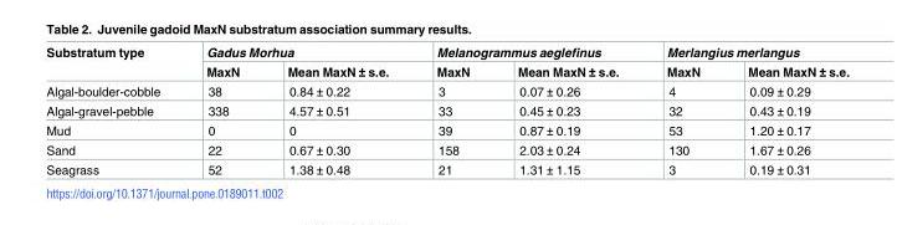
<table><thead><tr><td rowspan="2">Substratum type</td><td colspan="2">Gadus Morhua</td><td colspan="2">Melanogrammus aeglefinus</td><td colspan="2">Merlangius merlangus</td></tr><tr><td>MaxN</td><td>Mean MaxN ± s.e.</td><td>MaxN</td><td>Mean MaxN ± s.e.</td><td>MaxN</td><td>Mean MaxN ± s.e.</td></tr></thead><tbody><tr><td>Algal-boulder-cobble</td><td>38</td><td>0.84 ± 0.22</td><td>3</td><td>0.07 ± 0.26</td><td>4</td><td>0.09 ± 0.29</td></tr><tr><td>Algal-gravel-pebble</td><td>338</td><td>4.57 ± 0.51</td><td>33</td><td>0.45 ± 0.23</td><td>32</td><td>0.43 ± 0.19</td></tr><tr><td>Mud</td><td>0</td><td>0</td><td>39</td><td>0.87 ± 0.19</td><td>53</td><td>1.20 ± 0.17</td></tr><tr><td>Sand</td><td>22</td><td>0.67 ± 0.30</td><td>158</td><td>2.03 ± 0.24</td><td>130</td><td>1.67 ± 0.26</td></tr><tr><td>Seagrass</td><td>52</td><td>1.38 ± 0.48</td><td>21</td><td>1.31 ± 1.15</td><td>3</td><td>0.19 ± 0.31</td></tr></tbody></table>